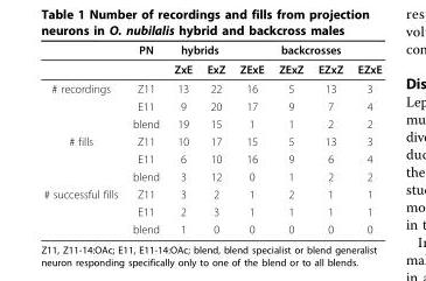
<table><thead><tr><td rowspan="2"></td><td rowspan="2">PN</td><td colspan="2">hybrids</td><td colspan="4">backcrosses</td></tr><tr><td>ZxE</td><td>ExZ</td><td>ZExE</td><td>ZExZ</td><td>EZxZ</td><td>EZxE</td></tr></thead><tbody><tr><td rowspan="3"># recordings</td><td>Z11</td><td>13</td><td>22</td><td>16</td><td>5</td><td>13</td><td>3</td></tr><tr><td>E11</td><td>9</td><td>20</td><td>17</td><td>9</td><td>7</td><td>4</td></tr><tr><td>blend</td><td>19</td><td>15</td><td>1</td><td>1</td><td>2</td><td>2</td></tr><tr><td rowspan="3"># fills</td><td>Z11</td><td>10</td><td>17</td><td>15</td><td>5</td><td>13</td><td>3</td></tr><tr><td>E11</td><td>6</td><td>10</td><td>16</td><td>9</td><td>6</td><td>4</td></tr><tr><td>blend</td><td>3</td><td>12</td><td>0</td><td>1</td><td>2</td><td>2</td></tr><tr><td rowspan="3"># successful fills</td><td>Z11</td><td>3</td><td>2</td><td>1</td><td>2</td><td>1</td><td>1</td></tr><tr><td>E11</td><td>2</td><td>3</td><td>1</td><td>1</td><td>1</td><td>1</td></tr><tr><td>blend</td><td>1</td><td>0</td><td>0</td><td>0</td><td>0</td><td>0</td></tr></tbody></table>